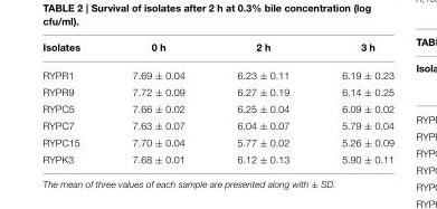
<table><thead><tr><td>Isolates</td><td>0 h</td><td>2 h</td><td>3 h</td></tr></thead><tbody><tr><td>RYPR1</td><td>7.69 ± 0.04</td><td>6.23 ± 0.11</td><td>6.19 ± 0.23</td></tr><tr><td>RYPR9</td><td>7.72 ± 0.09</td><td>6.27 ± 0.19</td><td>6.14 ± 0.25</td></tr><tr><td>RYPC5</td><td>7.66 ± 0.02</td><td>6.25 ± 0.04</td><td>6.09 ± 0.02</td></tr><tr><td>RYPC7</td><td>7.63 ± 0.07</td><td>6.04 ± 0.07</td><td>5.79 ± 0.04</td></tr><tr><td>RYPC15</td><td>7.70 ± 0.04</td><td>5.77 ± 0.02</td><td>5.26 ± 0.09</td></tr><tr><td>RYPK3</td><td>7.68 ± 0.01</td><td>6.12 ± 0.13</td><td>5.90 ± 0.11</td></tr></tbody></table>